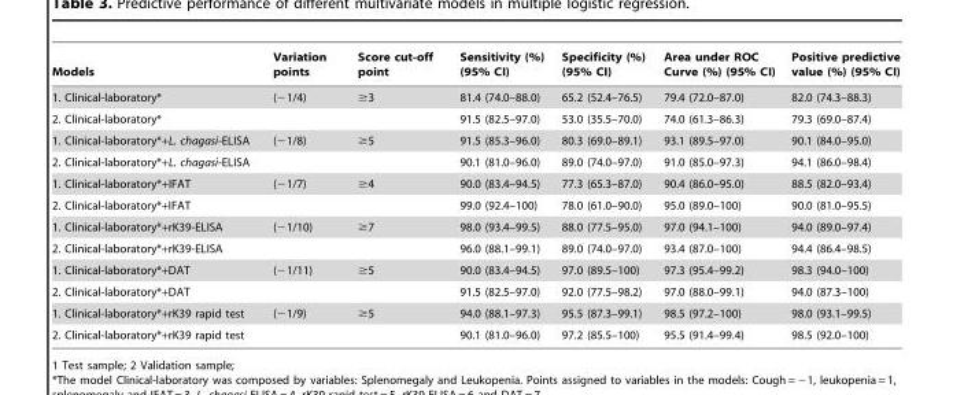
<table><thead><tr><td>Models</td><td>Variation points</td><td>Score cut-off point</td><td>Sensitivity (%) (95% CI)</td><td>Specificity (%) (95% CI)</td><td>Area under ROC Curve (%) (95% CI)</td><td>Positive predictive value (%) (95% CI)</td></tr></thead><tbody><tr><td>1. Clinical-laboratory*</td><td>(−1/4)</td><td>≥3</td><td>81.4 (74.0–88.0)</td><td>65.2 (52.4–76.5)</td><td>79.4 (72.0–87.0)</td><td>82.0 (74.3–88.3)</td></tr><tr><td>2. Clinical-laboratory*</td><td></td><td></td><td>91.5 (82.5–97.0)</td><td>53.0 (35.5–70.0)</td><td>74.0 (61.3–86.3)</td><td>79.3 (69.0–87.4)</td></tr><tr><td>1. Clinical-laboratory*+L. chagasi-ELISA</td><td>(−1/8)</td><td>≥5</td><td>91.5 (85.3–96.0)</td><td>80.3 (69.0–89.1)</td><td>93.1 (89.5–97.0)</td><td>90.1 (84.0–95.0)</td></tr><tr><td>2. Clinical-laboratory*+L. chagasi-ELISA</td><td></td><td></td><td>90.1 (81.0–96.0)</td><td>89.0 (74.0–97.0)</td><td>91.0 (85.0–97.3)</td><td>94.1 (86.0–98.4)</td></tr><tr><td>1. Clinical-laboratory*+IFAT</td><td>(−1/7)</td><td>≥4</td><td>90.0 (83.4–94.5)</td><td>77.3 (65.3–87.0)</td><td>90.4 (86.0–95.0)</td><td>88.5 (82.0–93.4)</td></tr><tr><td>2. Clinical-laboratory*+IFAT</td><td></td><td></td><td>99.0 (92.4–100)</td><td>78.0 (61.0–90.0)</td><td>95.0 (89.0–100)</td><td>90.0 (81.0–95.5)</td></tr><tr><td>1. Clinical-laboratory*+rK39-ELISA</td><td>(−1/10)</td><td>≥7</td><td>98.0 (93.4–99.5)</td><td>88.0 (77.5–95.0)</td><td>97.0 (94.1–100)</td><td>94.0 (89.0–97.4)</td></tr><tr><td>2. Clinical-laboratory*+rK39-ELISA</td><td></td><td></td><td>96.0 (88.1–99.1)</td><td>89.0 (74.0–97.0)</td><td>93.4 (87.0–100)</td><td>94.4 (86.4–98.5)</td></tr><tr><td>1. Clinical-laboratory*+DAT</td><td>(−1/11)</td><td>≥5</td><td>90.0 (83.4–94.5)</td><td>97.0 (89.5–100)</td><td>97.3 (95.4–99.2)</td><td>98.3 (94.0–100)</td></tr><tr><td>2. Clinical-laboratory*+DAT</td><td></td><td></td><td>91.5 (82.5–97.0)</td><td>92.0 (77.5–98.2)</td><td>97.0 (88.0–99.1)</td><td>94.0 (87.3–100)</td></tr><tr><td>1. Clinical-laboratory*+rK39 rapid test</td><td>(−1/9)</td><td>≥5</td><td>94.0 (88.1–97.3)</td><td>95.5 (87.3–99.1)</td><td>98.5 (97.2–100)</td><td>98.0 (93.1–99.5)</td></tr><tr><td>2. Clinical-laboratory*+rK39 rapid test</td><td></td><td></td><td>90.1 (81.0–96.0)</td><td>97.2 (85.5–100)</td><td>95.5 (91.4–99.4)</td><td>98.5 (92.0–100)</td></tr></tbody></table>